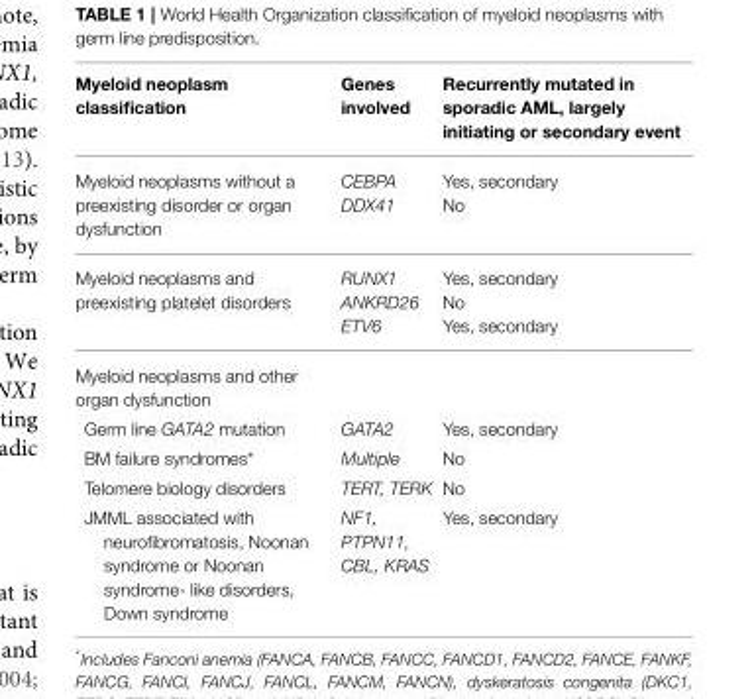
<table><thead><tr><td>Myeloid neoplasm classification</td><td>Genes involved</td><td>Recurrently mutated in sporadic AML, largely initiating or secondary event</td></tr></thead><tbody><tr><td>Myeloid neoplasms without a preexisting disorder or organ dysfunction</td><td>CEBPA DDX41</td><td>Yes, secondary No</td></tr><tr><td>Myeloid neoplasms and preexisting platelet disorders</td><td>RUNX1 ANKRD26 ETV6</td><td>Yes, secondary No Yes, secondary</td></tr><tr><td colspan="3">Myeloid neoplasms and other organ dysfunction</td></tr><tr><td>Germ line GATA2 mutation</td><td>GATA2</td><td>Yes, secondary</td></tr><tr><td>BM failure syndromes*</td><td>Multiple</td><td>No</td></tr><tr><td>Telomere biology disorders</td><td>TERT, TERK</td><td>No</td></tr><tr><td>JMML associated with neurofibromatosis, Noonan syndrome or Noonan syndrome- like disorders, Down syndrome</td><td>NF1, PTPN11, CBL, KRAS</td><td>Yes, secondary</td></tr></tbody></table>